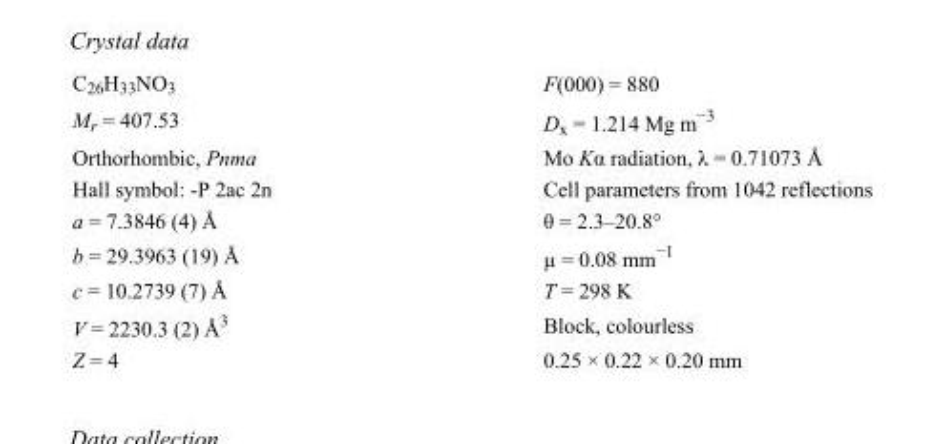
<table><tbody><tr><td>C<sub>26</sub>H<sub>33</sub>NO<sub>3</sub></td><td>F(000) = 880</td></tr><tr><td>M<sub>r</sub> = 407.53</td><td>D<sub>x</sub> = 1.214 Mg m<sup>−3</sup></td></tr><tr><td>Orthorhombic, Pnma</td><td>Mo Kα radiation, λ = 0.71073 Å</td></tr><tr><td>Hall symbol: -P 2ac 2n</td><td>Cell parameters from 1042 reflections</td></tr><tr><td>a = 7.3846 (4) Å</td><td>θ = 2.3–20.8°</td></tr><tr><td>b = 29.3963 (19) Å</td><td>µ = 0.08 mm<sup>−1</sup></td></tr><tr><td>c = 10.2739 (7) Å</td><td>T = 298 K</td></tr><tr><td>V = 2230.3 (2) Å<sup>3</sup></td><td>Block, colourless</td></tr><tr><td>Z = 4</td><td>0.25 × 0.22 × 0.20 mm</td></tr></tbody></table>